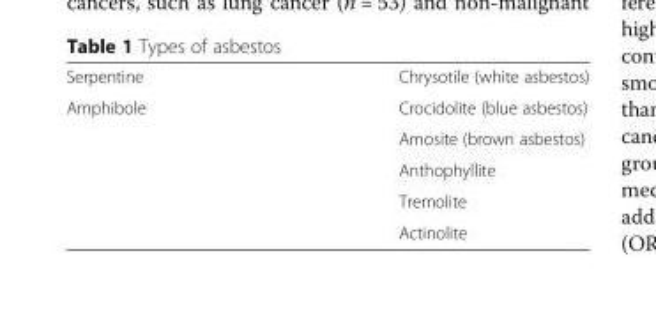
<table><tbody><tr><td>Serpentine</td><td>Chrysotile (white asbestos)</td></tr><tr><td rowspan="5">Amphibole</td><td>Crocidolite (blue asbestos)</td></tr><tr><td>Amosite (brown asbestos)</td></tr><tr><td>Anthophyllite</td></tr><tr><td>Tremolite</td></tr><tr><td>Actinolite</td></tr></tbody></table>